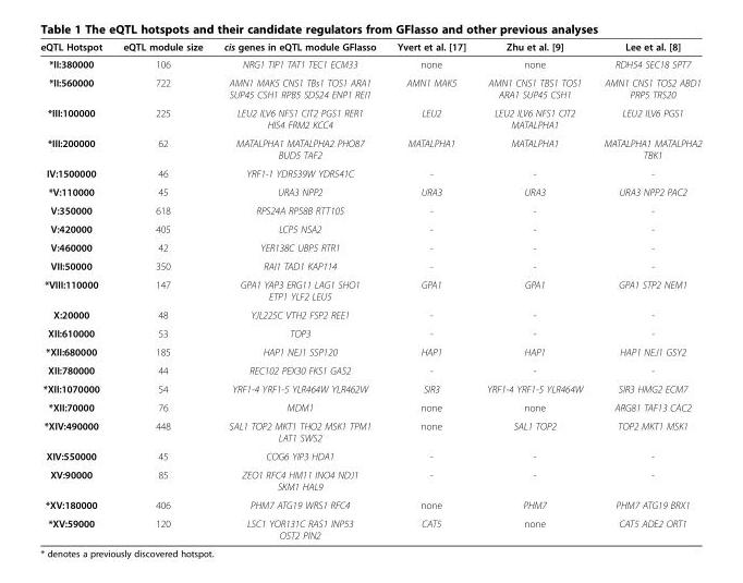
<table><thead><tr><td>eQTL Hotspot</td><td>eQTL module size</td><td>cis genes in eQTL module GFlasso</td><td>Yvert et al. [17]</td><td>Zhu et al. [9]</td><td>Lee et al. [8]</td></tr></thead><tbody><tr><td>*II:380000</td><td>106</td><td>NRG1 TIP1 TAT1 TEC1 ECM33</td><td>none</td><td>none</td><td>RDH54 SEC18 SPT7</td></tr><tr><td>*II:560000</td><td>722</td><td>AMN1 MAK5 CNS1 TBs1 TOS1 ARA1 SUP45 CSH1 RPB5 SDS24 ENP1 REI1</td><td>AMN1 MAK5</td><td>AMN1 CNS1 TBS1 TOS1 ARA1 SUP45 CSH1</td><td>AMN1 CNS1 TOS2 ABD1 PRP5 TRS20</td></tr><tr><td>*III:100000</td><td>225</td><td>LEU2 ILV6 NFS1 CIT2 PGS1 RER1 HIS4 FRM2 KCC4</td><td>LEU2</td><td>LEU2 ILV6 NFS1 CIT2 MATALPHA1</td><td>LEU2 ILV6 PGS1</td></tr><tr><td>*III:200000</td><td>62</td><td>MATALPHA1 MATALPHA2 PHO87 BUD5 TAF2</td><td>MATALPHA1</td><td>MATALPHA1</td><td>MATALPHA1 MATALPHA2 TBK1</td></tr><tr><td>IV:1500000</td><td>46</td><td>YRF1-1 YDR539W YDR541C</td><td>-</td><td>-</td><td>-</td></tr><tr><td>*V:110000</td><td>45</td><td>URA3 NPP2</td><td>URA3</td><td>URA3</td><td>URA3 NPP2 PAC2</td></tr><tr><td>V:350000</td><td>618</td><td>RPS24A RPS8B RTT105</td><td>-</td><td>-</td><td>-</td></tr><tr><td>V:420000</td><td>405</td><td>LCP5 NSA2</td><td>-</td><td>-</td><td>-</td></tr><tr><td>V:460000</td><td>42</td><td>YER138C UBP5 RTR1</td><td>-</td><td>-</td><td>-</td></tr><tr><td>VII:50000</td><td>350</td><td>RAI1 TAD1 KAP114</td><td>-</td><td>-</td><td>-</td></tr><tr><td>*VIII:110000</td><td>147</td><td>GPA1 YAP3 ERG11 LAG1 SHO1 ETP1 YLF2 LEU5</td><td>GPA1</td><td>GPA1</td><td>GPA1 STP2 NEM1</td></tr><tr><td>X:20000</td><td>48</td><td>YJL225C VTH2 FSP2 REE1</td><td>-</td><td>-</td><td>-</td></tr><tr><td>XII:610000</td><td>53</td><td>TOP3</td><td>-</td><td>-</td><td>-</td></tr><tr><td>*XII:680000</td><td>185</td><td>HAP1 NEJ1 SSP120</td><td>HAP1</td><td>HAP1</td><td>HAP1 NEJ1 GSY2</td></tr><tr><td>XII:780000</td><td>44</td><td>REC102 PEX30 FKS1 GAS2</td><td>-</td><td>-</td><td>-</td></tr><tr><td>*XII:1070000</td><td>54</td><td>YRF1-4 YRF1-5 YLR464W YLR462W</td><td>SIR3</td><td>YRF1-4 YRF1-5 YLR464W</td><td>SIR3 HMG2 ECM7</td></tr><tr><td>*XII:70000</td><td>76</td><td>MDM1</td><td>none</td><td>none</td><td>ARG81 TAF13 CAC2</td></tr><tr><td>*XIV:490000</td><td>448</td><td>SAL1 TOP2 MKT1 THO2 MSK1 TPM1 LAT1 SWS2</td><td>none</td><td>SAL1 TOP2</td><td>TOP2 MKT1 MSK1</td></tr><tr><td>XIV:550000</td><td>45</td><td>COG6 YIP3 HDA1</td><td>-</td><td>-</td><td>-</td></tr><tr><td>XV:90000</td><td>85</td><td>ZEO1 RFC4 HM11 INO4 NDJ1 SKM1 HAL9</td><td>-</td><td>-</td><td>-</td></tr><tr><td>*XV:180000</td><td>406</td><td>PHM7 ATG19 WRS1 RFC4</td><td>none</td><td>PHM7</td><td>PHM7 ATG19 BRX1</td></tr><tr><td>*XV:59000</td><td>120</td><td>LSC1 YOR131C RAS1 INP53 OST2 PIN2</td><td>CAT5</td><td>none</td><td>CAT5 ADE2 ORT1</td></tr></tbody></table>